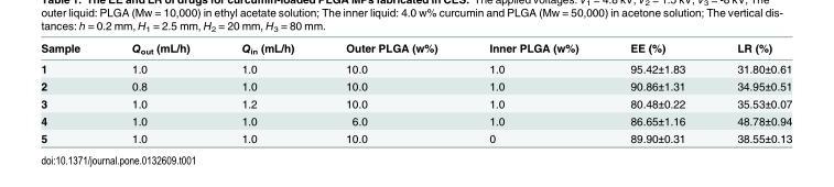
<table><thead><tr><td>Sample</td><td>Q<sub>out</sub> (mL/h)</td><td>Q<sub>in</sub> (mL/h)</td><td>Outer PLGA (w%)</td><td>Inner PLGA (w%)</td><td>EE (%)</td><td>LR (%)</td></tr></thead><tbody><tr><td>1</td><td>1.0</td><td>1.0</td><td>10.0</td><td>1.0</td><td>95.42±1.83</td><td>31.80±0.61</td></tr><tr><td>2</td><td>0.8</td><td>1.0</td><td>10.0</td><td>1.0</td><td>90.86±1.31</td><td>34.95±0.51</td></tr><tr><td>3</td><td>1.0</td><td>1.2</td><td>10.0</td><td>1.0</td><td>80.48±0.22</td><td>35.53±0.07</td></tr><tr><td>4</td><td>1.0</td><td>1.0</td><td>6.0</td><td>1.0</td><td>86.65±1.16</td><td>48.78±0.94</td></tr><tr><td>5</td><td>1.0</td><td>1.0</td><td>10.0</td><td>0</td><td>89.90±0.31</td><td>38.55±0.13</td></tr></tbody></table>